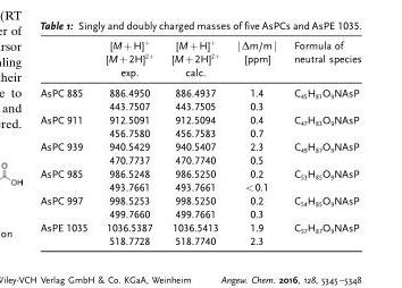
<table><thead><tr><td></td><td>[M+H]<sup>+</sup> [M+2H]<sup>2+</sup> exp.</td><td>[M+H]<sup>+</sup> [M+2H]<sup>2+</sup> calc.</td><td>|Δm/m| [ppm]</td><td>Formula of neutral species</td></tr></thead><tbody><tr><td>AsPC 885</td><td>886.4950 443.7507</td><td>886.4937 443.7505</td><td>1.4 0.3</td><td>C<sub>45</sub>H<sub>81</sub>O<sub>9</sub>NAsP</td></tr><tr><td>AsPC 911</td><td>912.5091 456.7580</td><td>912.5094 456.7583</td><td>0.4 0.7</td><td>C<sub>47</sub>H<sub>83</sub>O<sub>9</sub>NAsP</td></tr><tr><td>AsPC 939</td><td>940.5429 470.7737</td><td>940.5407 470.7740</td><td>2.3 0.5</td><td>C<sub>49</sub>H<sub>87</sub>O<sub>9</sub>NAsP</td></tr><tr><td>AsPC 985</td><td>986.5248 493.7661</td><td>986.5250 493.7661</td><td>0.2 &lt;0.1</td><td>C<sub>53</sub>H<sub>85</sub>O<sub>9</sub>NAsP</td></tr><tr><td>AsPC 997</td><td>998.5253 499.7660</td><td>998.5250 499.7661</td><td>0.2 0.3</td><td>C<sub>54</sub>H<sub>85</sub>O<sub>9</sub>NAsP</td></tr><tr><td>AsPE 1035</td><td>1036.5387 518.7728</td><td>1036.5413 518.7740</td><td>1.9 2.3</td><td>C<sub>57</sub>H<sub>87</sub>O<sub>9</sub>NAsP</td></tr></tbody></table>